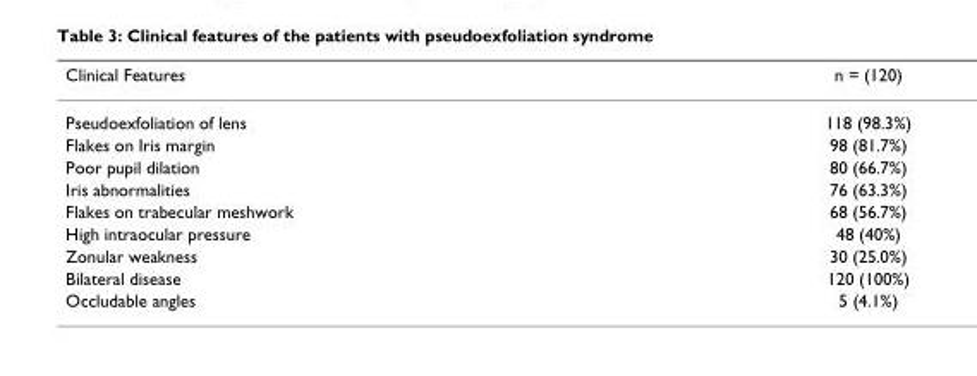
<table><thead><tr><td>Clinical Features</td><td>n = (120)</td></tr></thead><tbody><tr><td>Pseudoexfoliation of lens</td><td>118 (98.3%)</td></tr><tr><td>Flakes on Iris margin</td><td>98 (81.7%)</td></tr><tr><td>Poor pupil dilation</td><td>80 (66.7%)</td></tr><tr><td>Iris abnormalities</td><td>76 (63.3%)</td></tr><tr><td>Flakes on trabecular meshwork</td><td>68 (56.7%)</td></tr><tr><td>High intraocular pressure</td><td>48 (40%)</td></tr><tr><td>Zonular weakness</td><td>30 (25.0%)</td></tr><tr><td>Bilateral disease</td><td>120 (100%)</td></tr><tr><td>Occludable angles</td><td>5 (4.1%)</td></tr></tbody></table>